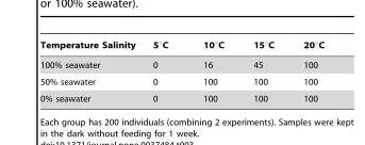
<table><thead><tr><td>Temperature Salinity</td><td>5°C</td><td>10°C</td><td>15°C</td><td>20°C</td></tr></thead><tbody><tr><td>100% seawater</td><td>0</td><td>16</td><td>45</td><td>100</td></tr><tr><td>50% seawater</td><td>0</td><td>100</td><td>100</td><td>100</td></tr><tr><td>0% seawater</td><td>0</td><td>100</td><td>100</td><td>100</td></tr></tbody></table>